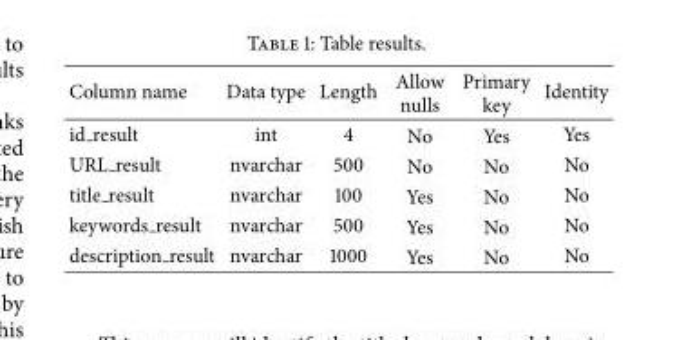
<table><thead><tr><td>Column name</td><td>Data type</td><td>Length</td><td>Allow nulls</td><td>Primary key</td><td>Identity</td></tr></thead><tbody><tr><td>id result</td><td>int</td><td>4</td><td>No</td><td>Yes</td><td>Yes</td></tr><tr><td>URL result</td><td>nvarchar</td><td>500</td><td>No</td><td>No</td><td>No</td></tr><tr><td>title result</td><td>nvarchar</td><td>100</td><td>Yes</td><td>No</td><td>No</td></tr><tr><td>keywords result</td><td>nvarchar</td><td>500</td><td>Yes</td><td>No</td><td>No</td></tr><tr><td>description result</td><td>nvarchar</td><td>1000</td><td>Yes</td><td>No</td><td>No</td></tr></tbody></table>